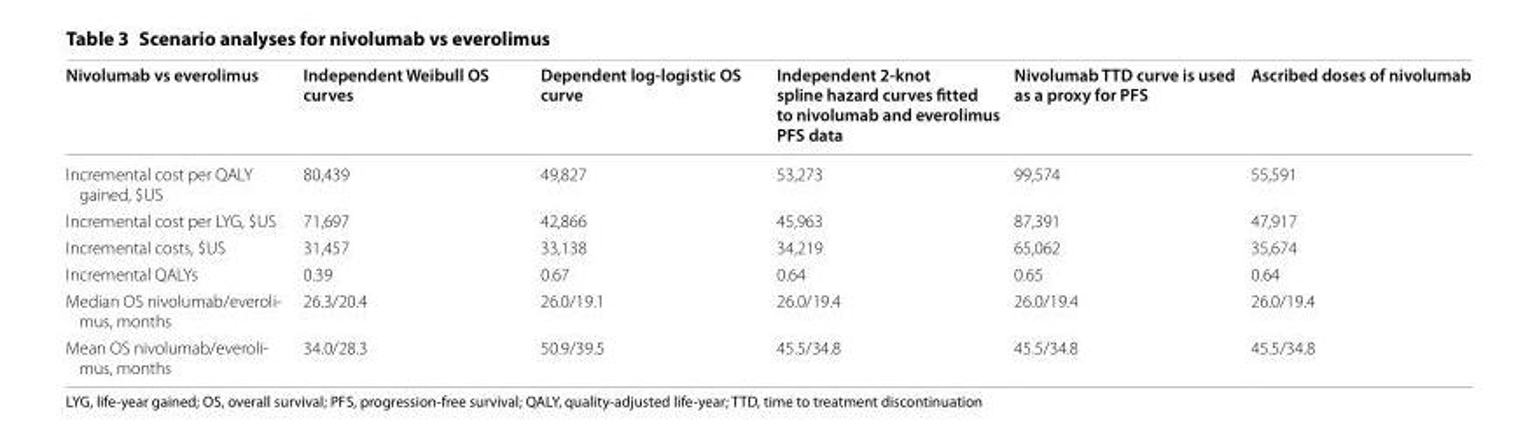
<table><thead><tr><td>Nivolumab vs everolimus</td><td>Independent Weibull OS curves</td><td>Dependent log‑logistic OS curve</td><td>Independent 2‑knot spline hazard curves fitted to nivolumab and everolimus PFS data</td><td>Nivolumab TTD curve is used as a proxy for PFS</td><td>Ascribed doses of nivolumab</td></tr></thead><tbody><tr><td>Incremental cost per QALY gained, $US</td><td>80,439</td><td>49,827</td><td>53,273</td><td>99,574</td><td>55,591</td></tr><tr><td>Incremental cost per LYG, $US</td><td>71,697</td><td>42,866</td><td>45,963</td><td>87,391</td><td>47,917</td></tr><tr><td>Incremental costs, $US</td><td>31,457</td><td>33,138</td><td>34,219</td><td>65,062</td><td>35,674</td></tr><tr><td>Incremental QALYs</td><td>0.39</td><td>0.67</td><td>0.64</td><td>0.65</td><td>0.64</td></tr><tr><td>Median OS nivolumab/everoli- mus, months</td><td>26.3/20.4</td><td>26.0/19.1</td><td>26.0/19.4</td><td>26.0/19.4</td><td>26.0/19.4</td></tr><tr><td>Mean OS nivolumab/everoli- mus, months</td><td>34.0/28.3</td><td>50.9/39.5</td><td>45.5/34.8</td><td>45.5/34.8</td><td>45.5/34.8</td></tr></tbody></table>